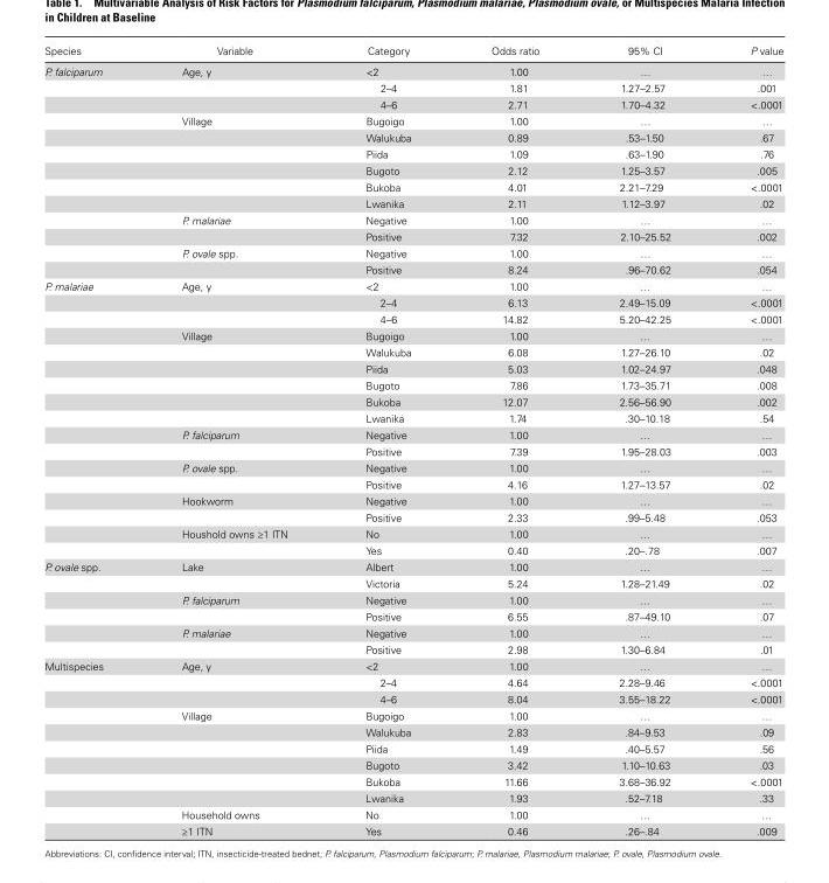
<table><thead><tr><td>Species</td><td>Variable</td><td>Category</td><td>Odds ratio</td><td>95% CI</td><td>P value</td></tr></thead><tbody><tr><td rowspan="13">P. falciparum</td><td>Age, y</td><td>&lt;2</td><td>1.00</td><td>…</td><td>…</td></tr><tr><td></td><td>2–4</td><td>1.81</td><td>1.27–2.57</td><td>.001</td></tr><tr><td></td><td>4–6</td><td>2.71</td><td>1.70–4.32</td><td>&lt;.0001</td></tr><tr><td>Village</td><td>Bugoigo</td><td>1.00</td><td>…</td><td>…</td></tr><tr><td></td><td>Walukuba</td><td>0.89</td><td>.53–1.50</td><td>.67</td></tr><tr><td></td><td>Piida</td><td>1.09</td><td>.63–1.90</td><td>.76</td></tr><tr><td></td><td>Bugoto</td><td>2.12</td><td>1.25–3.57</td><td>.005</td></tr><tr><td></td><td>Bukoba</td><td>4.01</td><td>2.21–7.29</td><td>&lt;.0001</td></tr><tr><td></td><td>Lwanika</td><td>2.11</td><td>1.12–3.97</td><td>.02</td></tr><tr><td>P. malariae</td><td>Negative</td><td>1.00</td><td>…</td><td>…</td></tr><tr><td></td><td>Positive</td><td>7.32</td><td>2.10–25.52</td><td>.002</td></tr><tr><td>P. ovale spp.</td><td>Negative</td><td>1.00</td><td>…</td><td>…</td></tr><tr><td></td><td>Positive</td><td>8.24</td><td>.96–70.62</td><td>.054</td></tr><tr><td rowspan="17">P. malariae</td><td>Age, y</td><td>&lt;2</td><td>1.00</td><td>…</td><td>…</td></tr><tr><td></td><td>2–4</td><td>6.13</td><td>2.49–15.09</td><td>&lt;.0001</td></tr><tr><td></td><td>4–6</td><td>14.82</td><td>5.20–42.25</td><td>&lt;.0001</td></tr><tr><td>Village</td><td>Bugoigo</td><td>1.00</td><td>…</td><td>…</td></tr><tr><td></td><td>Walukuba</td><td>6.08</td><td>1.27–26.10</td><td>.02</td></tr><tr><td></td><td>Piida</td><td>5.03</td><td>1.02–24.97</td><td>.048</td></tr><tr><td></td><td>Bugoto</td><td>7.86</td><td>1.73–35.71</td><td>.008</td></tr><tr><td></td><td>Bukoba</td><td>12.07</td><td>2.56–56.90</td><td>.002</td></tr><tr><td></td><td>Lwanika</td><td>1.74</td><td>.30–10.18</td><td>.54</td></tr><tr><td>P. falciparum</td><td>Negative</td><td>1.00</td><td>…</td><td>…</td></tr><tr><td></td><td>Positive</td><td>7.39</td><td>1.95–28.03</td><td>.003</td></tr><tr><td>P. ovale spp.</td><td>Negative</td><td>1.00</td><td>…</td><td>…</td></tr><tr><td></td><td>Positive</td><td>4.16</td><td>1.27–13.57</td><td>.02</td></tr><tr><td>Hookworm</td><td>Negative</td><td>1.00</td><td>…</td><td>…</td></tr><tr><td></td><td>Positive</td><td>2.33</td><td>.99–5.48</td><td>.053</td></tr><tr><td>Houshold owns ≥1 ITN</td><td>No</td><td>1.00</td><td>…</td><td>…</td></tr><tr><td></td><td>Yes</td><td>0.40</td><td>.20–.78</td><td>.007</td></tr><tr><td rowspan="6">P. ovale spp.</td><td>Lake</td><td>Albert</td><td>1.00</td><td>…</td><td>…</td></tr><tr><td></td><td>Victoria</td><td>5.24</td><td>1.28–21.49</td><td>.02</td></tr><tr><td>P. falciparum</td><td>Negative</td><td>1.00</td><td>…</td><td>…</td></tr><tr><td></td><td>Positive</td><td>6.55</td><td>.87–49.10</td><td>.07</td></tr><tr><td>P. malariae</td><td>Negative</td><td>1.00</td><td>…</td><td>…</td></tr><tr><td></td><td>Positive</td><td>2.98</td><td>1.30–6.84</td><td>.01</td></tr><tr><td rowspan="11">Multispecies</td><td>Age, y</td><td>&lt;2</td><td>1.00</td><td>…</td><td>…</td></tr><tr><td></td><td>2–4</td><td>4.64</td><td>2.28–9.46</td><td>&lt;.0001</td></tr><tr><td></td><td>4–6</td><td>8.04</td><td>3.55–18.22</td><td>&lt;.0001</td></tr><tr><td>Village</td><td>Bugoigo</td><td>1.00</td><td>…</td><td>…</td></tr><tr><td></td><td>Walukuba</td><td>2.83</td><td>.84–9.53</td><td>.09</td></tr><tr><td></td><td>Piida</td><td>1.49</td><td>.40–5.57</td><td>.56</td></tr><tr><td></td><td>Bugoto</td><td>3.42</td><td>1.10–10.63</td><td>.03</td></tr><tr><td></td><td>Bukoba</td><td>11.66</td><td>3.68–36.92</td><td>&lt;.0001</td></tr><tr><td></td><td>Lwanika</td><td>1.93</td><td>.52–7.18</td><td>.33</td></tr><tr><td>Household owns</td><td>No</td><td>1.00</td><td>…</td><td>…</td></tr><tr><td>≥1 ITN</td><td>Yes</td><td>0.46</td><td>.26–.84</td><td>.009</td></tr></tbody></table>